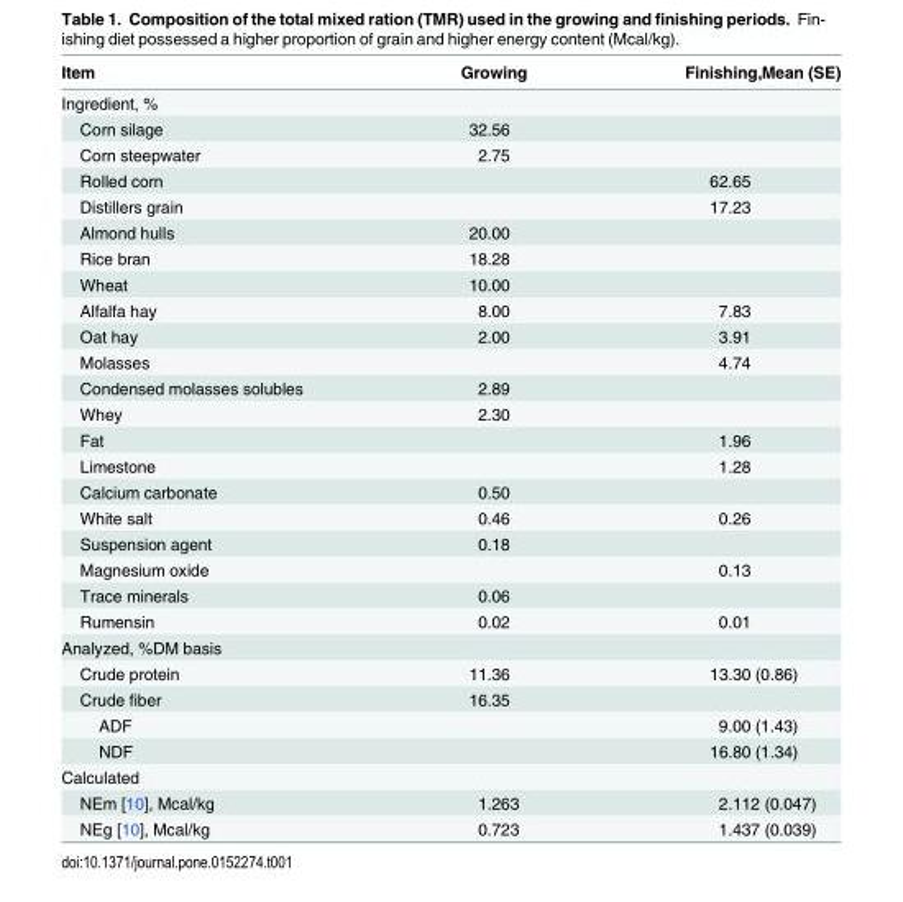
<table><thead><tr><td>Item</td><td>Growing</td><td>Finishing,Mean (SE)</td></tr></thead><tbody><tr><td colspan="3">Ingredient, %</td></tr><tr><td>Corn silage</td><td>32.56</td><td></td></tr><tr><td>Corn steepwater</td><td>2.75</td><td></td></tr><tr><td>Rolled corn</td><td></td><td>62.65</td></tr><tr><td>Distillers grain</td><td></td><td>17.23</td></tr><tr><td>Almond hulls</td><td>20.00</td><td></td></tr><tr><td>Rice bran</td><td>18.28</td><td></td></tr><tr><td>Wheat</td><td>10.00</td><td></td></tr><tr><td>Alfalfa hay</td><td>8.00</td><td>7.83</td></tr><tr><td>Oat hay</td><td>2.00</td><td>3.91</td></tr><tr><td>Molasses</td><td></td><td>4.74</td></tr><tr><td>Condensed molasses solubles</td><td>2.89</td><td></td></tr><tr><td>Whey</td><td>2.30</td><td></td></tr><tr><td>Fat</td><td></td><td>1.96</td></tr><tr><td>Limestone</td><td></td><td>1.28</td></tr><tr><td>Calcium carbonate</td><td>0.50</td><td></td></tr><tr><td>White salt</td><td>0.46</td><td>0.26</td></tr><tr><td>Suspension agent</td><td>0.18</td><td></td></tr><tr><td>Magnesium oxide</td><td></td><td>0.13</td></tr><tr><td>Trace minerals</td><td>0.06</td><td></td></tr><tr><td>Rumensin</td><td>0.02</td><td>0.01</td></tr><tr><td colspan="3">Analyzed, %DM basis</td></tr><tr><td>Crude protein</td><td>11.36</td><td>13.30 (0.86)</td></tr><tr><td>Crude fiber</td><td>16.35</td><td></td></tr><tr><td>ADF</td><td></td><td>9.00 (1.43)</td></tr><tr><td>NDF</td><td></td><td>16.80 (1.34)</td></tr><tr><td colspan="3">Calculated</td></tr><tr><td>NEm [10], Mcal/kg</td><td>1.263</td><td>2.112 (0.047)</td></tr><tr><td>NEg [10], Mcal/kg</td><td>0.723</td><td>1.437 (0.039)</td></tr></tbody></table>